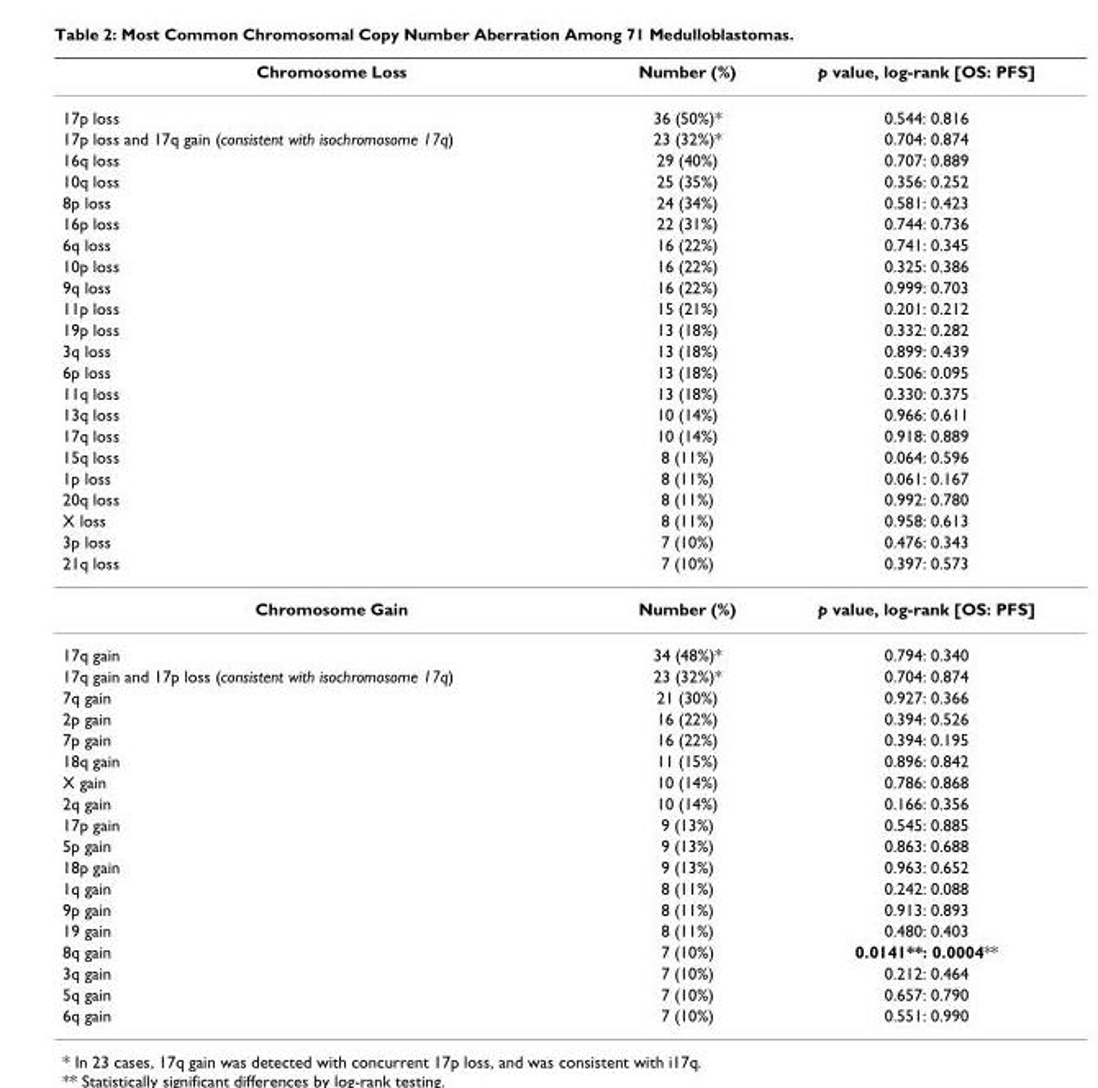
<table><thead><tr><td>Chromosome Loss</td><td>Number (%)</td><td>p value, log-rank [OS: PFS]</td></tr></thead><tbody><tr><td>17p loss</td><td>36 (50%)*</td><td>0.544: 0.816</td></tr><tr><td>17p loss and 17q gain (consistent with isochromosome 17q)</td><td>23 (32%)*</td><td>0.704: 0.874</td></tr><tr><td>16q loss</td><td>29 (40%)</td><td>0.707: 0.889</td></tr><tr><td>10q loss</td><td>25 (35%)</td><td>0.356: 0.252</td></tr><tr><td>8p loss</td><td>24 (34%)</td><td>0.581: 0.423</td></tr><tr><td>16p loss</td><td>22 (31%)</td><td>0.744: 0.736</td></tr><tr><td>6q loss</td><td>16 (22%)</td><td>0.741: 0.345</td></tr><tr><td>10p loss</td><td>16 (22%)</td><td>0.325: 0.386</td></tr><tr><td>9q loss</td><td>16 (22%)</td><td>0.999: 0.703</td></tr><tr><td>11p loss</td><td>15 (21%)</td><td>0.201: 0.212</td></tr><tr><td>19p loss</td><td>13 (18%)</td><td>0.332: 0.282</td></tr><tr><td>3q loss</td><td>13 (18%)</td><td>0.899: 0.439</td></tr><tr><td>6p loss</td><td>13 (18%)</td><td>0.506: 0.095</td></tr><tr><td>11q loss</td><td>13 (18%)</td><td>0.330: 0.375</td></tr><tr><td>13q loss</td><td>10 (14%)</td><td>0.966: 0.611</td></tr><tr><td>17q loss</td><td>10 (14%)</td><td>0.918: 0.889</td></tr><tr><td>15q loss</td><td>8 (11%)</td><td>0.064: 0.596</td></tr><tr><td>1p loss</td><td>8 (11%)</td><td>0.061: 0.167</td></tr><tr><td>20q loss</td><td>8 (11%)</td><td>0.992: 0.780</td></tr><tr><td>X loss</td><td>8 (11%)</td><td>0.958: 0.613</td></tr><tr><td>3p loss</td><td>7 (10%)</td><td>0.476: 0.343</td></tr><tr><td>21q loss</td><td>7 (10%)</td><td>0.397: 0.573</td></tr><tr><td>Chromosome Gain</td><td>Number (%)</td><td>p value, log-rank [OS: PFS]</td></tr><tr><td>17q gain</td><td>34 (48%)*</td><td>0.794: 0.340</td></tr><tr><td>17q gain and 17p loss (consistent with isochromosome 17q)</td><td>23 (32%)*</td><td>0.704: 0.874</td></tr><tr><td>7q gain</td><td>21 (30%)</td><td>0.927: 0.366</td></tr><tr><td>2p gain</td><td>16 (22%)</td><td>0.394: 0.526</td></tr><tr><td>7p gain</td><td>16 (22%)</td><td>0.394: 0.195</td></tr><tr><td>18q gain</td><td>11 (15%)</td><td>0.896: 0.842</td></tr><tr><td>X gain</td><td>10 (14%)</td><td>0.786: 0.868</td></tr><tr><td>2q gain</td><td>10 (14%)</td><td>0.166: 0.356</td></tr><tr><td>17p gain</td><td>9 (13%)</td><td>0.545: 0.885</td></tr><tr><td>5p gain</td><td>9 (13%)</td><td>0.863: 0.688</td></tr><tr><td>18p gain</td><td>9 (13%)</td><td>0.963: 0.652</td></tr><tr><td>1q gain</td><td>8 (11%)</td><td>0.242: 0.088</td></tr><tr><td>9p gain</td><td>8 (11%)</td><td>0.913: 0.893</td></tr><tr><td>19 gain</td><td>8 (11%)</td><td>0.480: 0.403</td></tr><tr><td>8q gain</td><td>7 (10%)</td><td>0.0141**: 0.0004**</td></tr><tr><td>3q gain</td><td>7 (10%)</td><td>0.212: 0.464</td></tr><tr><td>5q gain</td><td>7 (10%)</td><td>0.657: 0.790</td></tr><tr><td>6q gain</td><td>7 (10%)</td><td>0.551: 0.990</td></tr></tbody></table>